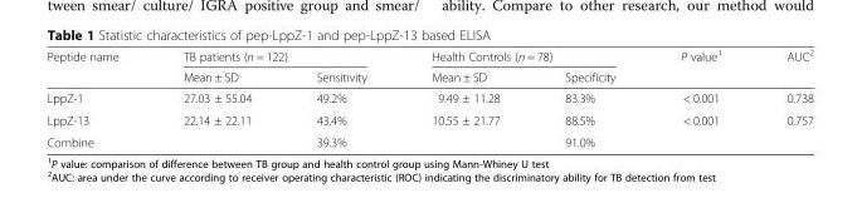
<table><thead><tr><td rowspan="2">Peptide name</td><td colspan="2">TB patients (n = 122)</td><td colspan="2">Health Controls (n = 78)</td><td rowspan="2">P value<sup>1</sup></td><td rowspan="2">AUC<sup>2</sup></td></tr><tr><td>Mean ± SD</td><td>Sensitivity</td><td>Mean ± SD</td><td>Specificity</td></tr></thead><tbody><tr><td>LppZ-1</td><td>27.03 ± 55.04</td><td>49.2%</td><td>9.49 ± 11.28</td><td>83.3%</td><td>&lt; 0.001</td><td>0.738</td></tr><tr><td>LppZ-13</td><td>22.14 ± 22.11</td><td>43.4%</td><td>10.55 ± 21.77</td><td>88.5%</td><td>&lt; 0.001</td><td>0.757</td></tr><tr><td>Combine</td><td></td><td>39.3%</td><td></td><td>91.0%</td><td></td><td></td></tr></tbody></table>